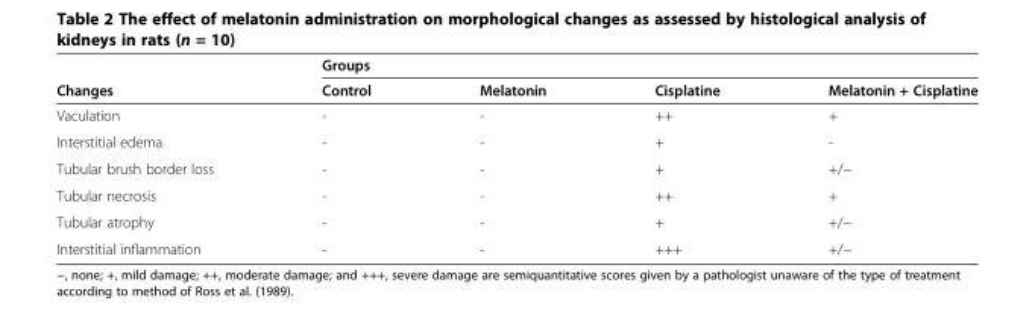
<table><thead><tr><td rowspan="2">Changes</td><td colspan="4">Groups</td></tr><tr><td>Control</td><td>Melatonin</td><td>Cisplatine</td><td>Melatonin + Cisplatine</td></tr></thead><tbody><tr><td>Vaculation</td><td>-</td><td>-</td><td>++</td><td>+</td></tr><tr><td>Interstitial edema</td><td>-</td><td>-</td><td>+</td><td>-</td></tr><tr><td>Tubular brush border loss</td><td>-</td><td>-</td><td>+</td><td>+/−</td></tr><tr><td>Tubular necrosis</td><td>-</td><td>-</td><td>++</td><td>+</td></tr><tr><td>Tubular atrophy</td><td>-</td><td>-</td><td>+</td><td>+/−</td></tr><tr><td>Interstitial inflammation</td><td>-</td><td>-</td><td>+++</td><td>+/−</td></tr></tbody></table>